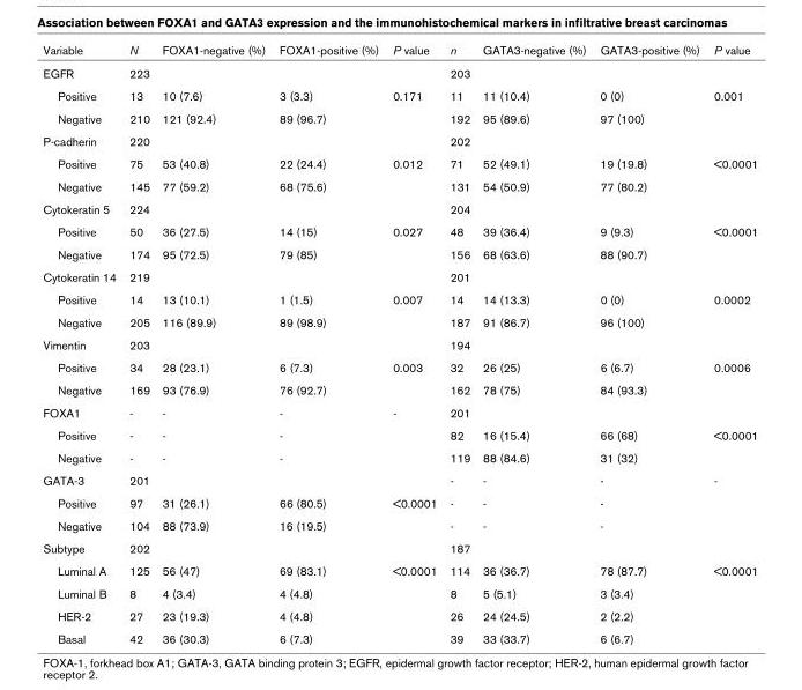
<table><thead><tr><td>Variable</td><td>N</td><td>FOXA1-negative (%)</td><td>FOXA1-positive (%)</td><td>P value</td><td>n</td><td>GATA3-negative (%)</td><td>GATA3-positive (%)</td><td>P value</td></tr></thead><tbody><tr><td>EGFR</td><td>223</td><td></td><td></td><td></td><td>203</td><td></td><td></td><td></td></tr><tr><td>Positive</td><td>13</td><td>10 (7.6)</td><td>3 (3.3)</td><td>0.171</td><td>11</td><td>11 (10.4)</td><td>0 (0)</td><td>0.001</td></tr><tr><td>Negative</td><td>210</td><td>121 (92.4)</td><td>89 (96.7)</td><td></td><td>192</td><td>95 (89.6)</td><td>97 (100)</td><td></td></tr><tr><td>P-cadherin</td><td>220</td><td></td><td></td><td></td><td>202</td><td></td><td></td><td></td></tr><tr><td>Positive</td><td>75</td><td>53 (40.8)</td><td>22 (24.4)</td><td>0.012</td><td>71</td><td>52 (49.1)</td><td>19 (19.8)</td><td>&lt;0.0001</td></tr><tr><td>Negative</td><td>145</td><td>77 (59.2)</td><td>68 (75.6)</td><td></td><td>131</td><td>54 (50.9)</td><td>77 (80.2)</td><td></td></tr><tr><td>Cytokeratin 5</td><td>224</td><td></td><td></td><td></td><td>204</td><td></td><td></td><td></td></tr><tr><td>Positive</td><td>50</td><td>36 (27.5)</td><td>14 (15)</td><td>0.027</td><td>48</td><td>39 (36.4)</td><td>9 (9.3)</td><td>&lt;0.0001</td></tr><tr><td>Negative</td><td>174</td><td>95 (72.5)</td><td>79 (85)</td><td></td><td>156</td><td>68 (63.6)</td><td>88 (90.7)</td><td></td></tr><tr><td>Cytokeratin 14</td><td>219</td><td></td><td></td><td></td><td>201</td><td></td><td></td><td></td></tr><tr><td>Positive</td><td>14</td><td>13 (10.1)</td><td>1 (1.5)</td><td>0.007</td><td>14</td><td>14 (13.3)</td><td>0 (0)</td><td>0.0002</td></tr><tr><td>Negative</td><td>205</td><td>116 (89.9)</td><td>89 (98.9)</td><td></td><td>187</td><td>91 (86.7)</td><td>96 (100)</td><td></td></tr><tr><td>Vimentin</td><td>203</td><td></td><td></td><td></td><td>194</td><td></td><td></td><td></td></tr><tr><td>Positive</td><td>34</td><td>28 (23.1)</td><td>6 (7.3)</td><td>0.003</td><td>32</td><td>26 (25)</td><td>6 (6.7)</td><td>0.0006</td></tr><tr><td>Negative</td><td>169</td><td>93 (76.9)</td><td>76 (92.7)</td><td></td><td>162</td><td>78 (75)</td><td>84 (93.3)</td><td></td></tr><tr><td>FOXA1</td><td>-</td><td>-</td><td>-</td><td>-</td><td>201</td><td></td><td></td><td></td></tr><tr><td>Positive</td><td>-</td><td>-</td><td>-</td><td></td><td>82</td><td>16 (15.4)</td><td>66 (68)</td><td>&lt;0.0001</td></tr><tr><td>Negative</td><td>-</td><td>-</td><td>-</td><td></td><td>119</td><td>88 (84.6)</td><td>31 (32)</td><td></td></tr><tr><td>GATA-3</td><td>201</td><td></td><td></td><td></td><td>-</td><td>-</td><td>-</td><td>-</td></tr><tr><td>Positive</td><td>97</td><td>31 (26.1)</td><td>66 (80.5)</td><td>&lt;0.0001</td><td>-</td><td>-</td><td>-</td><td></td></tr><tr><td>Negative</td><td>104</td><td>88 (73.9)</td><td>16 (19.5)</td><td></td><td>-</td><td>-</td><td>-</td><td></td></tr><tr><td>Subtype</td><td>202</td><td></td><td></td><td></td><td>187</td><td></td><td></td><td></td></tr><tr><td>Luminal A</td><td>125</td><td>56 (47)</td><td>69 (83.1)</td><td>&lt;0.0001</td><td>114</td><td>36 (36.7)</td><td>78 (87.7)</td><td>&lt;0.0001</td></tr><tr><td>Luminal B</td><td>8</td><td>4 (3.4)</td><td>4 (4.8)</td><td></td><td>8</td><td>5 (5.1)</td><td>3 (3.4)</td><td></td></tr><tr><td>HER-2</td><td>27</td><td>23 (19.3)</td><td>4 (4.8)</td><td></td><td>26</td><td>24 (24.5)</td><td>2 (2.2)</td><td></td></tr><tr><td>Basal</td><td>42</td><td>36 (30.3)</td><td>6 (7.3)</td><td></td><td>39</td><td>33 (33.7)</td><td>6 (6.7)</td><td></td></tr></tbody></table>